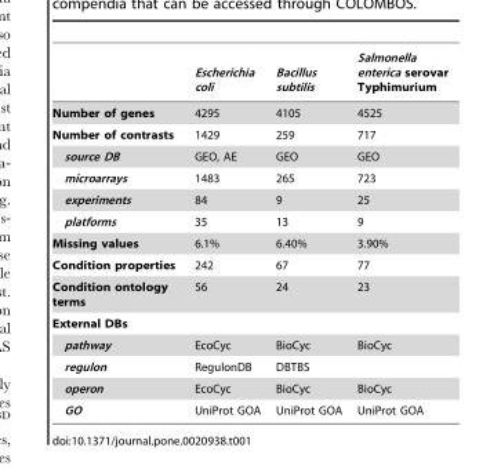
<table><thead><tr><td></td><td>Escherichia coli</td><td>Bacillus subtilis</td><td>Salmonella enterica serovar Typhimurium</td></tr></thead><tbody><tr><td>Number of genes</td><td>4295</td><td>4105</td><td>4525</td></tr><tr><td>Number of contrasts</td><td>1429</td><td>259</td><td>717</td></tr><tr><td>source DB</td><td>GEO, AE</td><td>GEO</td><td>GEO</td></tr><tr><td>microarrays</td><td>1483</td><td>265</td><td>723</td></tr><tr><td>experiments</td><td>84</td><td>9</td><td>25</td></tr><tr><td>platforms</td><td>35</td><td>13</td><td>9</td></tr><tr><td>Missing values</td><td>6.1%</td><td>6.40%</td><td>3.90%</td></tr><tr><td>Condition properties</td><td>242</td><td>67</td><td>77</td></tr><tr><td>Condition ontology terms</td><td>56</td><td>24</td><td>23</td></tr><tr><td colspan="4">External DBs</td></tr><tr><td>pathway</td><td>EcoCyc</td><td>BioCyc</td><td>BioCyc</td></tr><tr><td>regulon</td><td>RegulonDB</td><td>DBTBS</td><td></td></tr><tr><td>operon</td><td>EcoCyc</td><td>BioCyc</td><td>BioCyc</td></tr><tr><td>GO</td><td>UniProt GOA</td><td>UniProt GOA</td><td>UniProt GOA</td></tr></tbody></table>